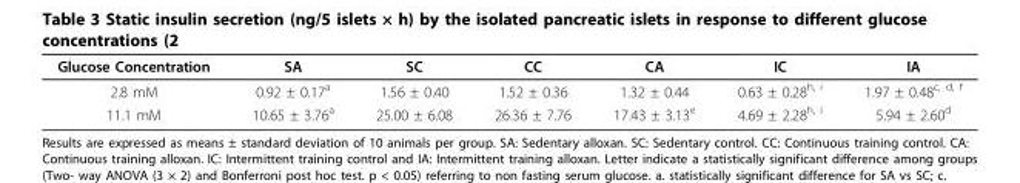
<table><thead><tr><td>Glucose Concentration</td><td>SA</td><td>SC</td><td>CC</td><td>CA</td><td>IC</td><td>IA</td></tr></thead><tbody><tr><td>2.8 mM</td><td>0.92 ± 0.17<sup>a</sup></td><td>1.56 ± 0.40</td><td>1.52 ± 0.36</td><td>1.32 ± 0.44</td><td>0.63 ± 0.28<sup>h, i</sup></td><td>1.97 ± 0.48<sup>c, d, f</sup></td></tr><tr><td>11.1 mM</td><td>10.65 ± 3.76<sup>a</sup></td><td>25.00 ± 6.08</td><td>26.36 ± 7.76</td><td>17.43 ± 3.13<sup>e</sup></td><td>4.69 ± 2.28<sup>h, i</sup></td><td>5.94 ± 2.60<sup>d</sup></td></tr></tbody></table>